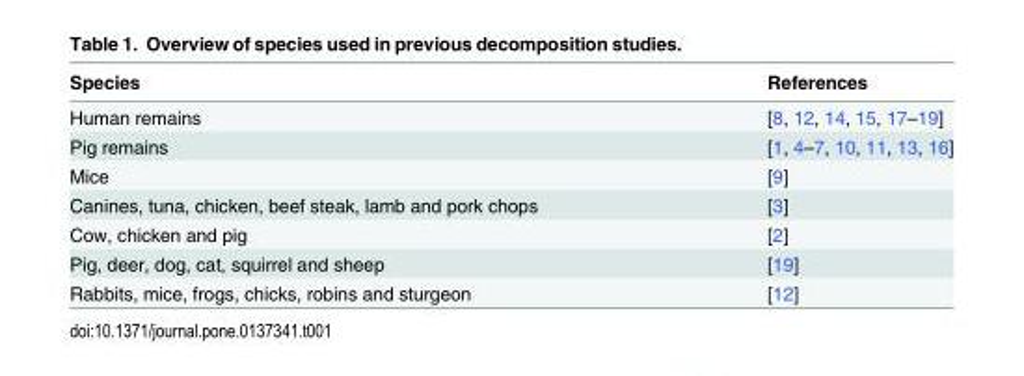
<table><thead><tr><td>Species</td><td>References</td></tr></thead><tbody><tr><td>Human remains</td><td>[8, 12, 14, 15, 17–19]</td></tr><tr><td>Pig remains</td><td>[1, 4–7, 10, 11, 13, 16]</td></tr><tr><td>Mice</td><td>[9]</td></tr><tr><td>Canines, tuna, chicken, beef steak, lamb and pork chops</td><td>[3]</td></tr><tr><td>Cow, chicken and pig</td><td>[2]</td></tr><tr><td>Pig, deer, dog, cat, squirrel and sheep</td><td>[19]</td></tr><tr><td>Rabbits, mice, frogs, chicks, robins and sturgeon</td><td>[12]</td></tr></tbody></table>